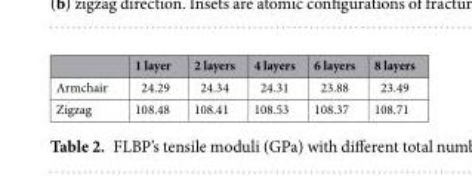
<table><thead><tr><td></td><td>1 layer</td><td>2 layers</td><td>4 layers</td><td>6 layers</td><td>8 layers</td></tr></thead><tbody><tr><td>Armchair</td><td>24.29</td><td>24.34</td><td>24.31</td><td>23.88</td><td>23.49</td></tr><tr><td>Zigzag</td><td>108.48</td><td>108.41</td><td>108.53</td><td>108.37</td><td>108.71</td></tr></tbody></table>